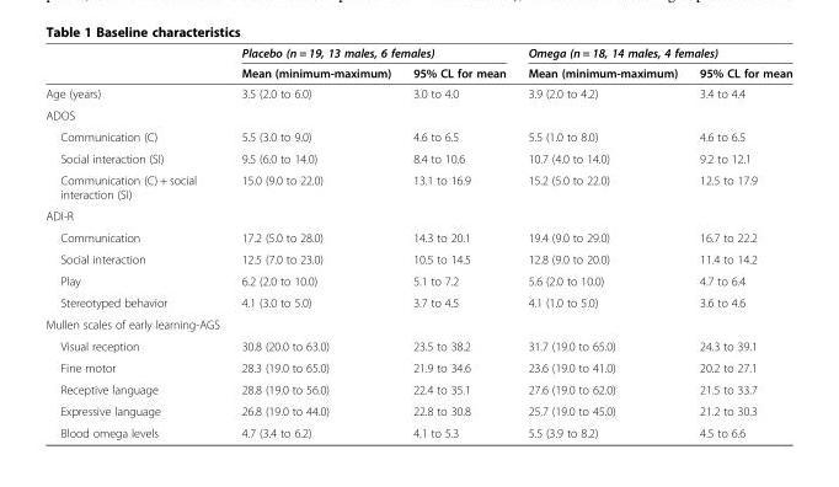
<table><thead><tr><td rowspan="2"></td><td colspan="2">Placebo (n = 19, 13 males, 6 females)</td><td colspan="2">Omega (n = 18, 14 males, 4 females)</td></tr><tr><td>Mean (minimum-maximum)</td><td>95% CL for mean</td><td>Mean (minimum-maximum)</td><td>95% CL for mean</td></tr></thead><tbody><tr><td>Age (years)</td><td>3.5 (2.0 to 6.0)</td><td>3.0 to 4.0</td><td>3.9 (2.0 to 4.2)</td><td>3.4 to 4.4</td></tr><tr><td colspan="5">ADOS</td></tr><tr><td>Communication (C)</td><td>5.5 (3.0 to 9.0)</td><td>4.6 to 6.5</td><td>5.5 (1.0 to 8.0)</td><td>4.6 to 6.5</td></tr><tr><td>Social interaction (SI)</td><td>9.5 (6.0 to 14.0)</td><td>8.4 to 10.6</td><td>10.7 (4.0 to 14.0)</td><td>9.2 to 12.1</td></tr><tr><td>Communication (C) + social interaction (SI)</td><td>15.0 (9.0 to 22.0)</td><td>13.1 to 16.9</td><td>15.2 (5.0 to 22.0)</td><td>12.5 to 17.9</td></tr><tr><td colspan="5">ADI-R</td></tr><tr><td>Communication</td><td>17.2 (5.0 to 28.0)</td><td>14.3 to 20.1</td><td>19.4 (9.0 to 29.0)</td><td>16.7 to 22.2</td></tr><tr><td>Social interaction</td><td>12.5 (7.0 to 23.0)</td><td>10.5 to 14.5</td><td>12.8 (9.0 to 20.0)</td><td>11.4 to 14.2</td></tr><tr><td>Play</td><td>6.2 (2.0 to 10.0)</td><td>5.1 to 7.2</td><td>5.6 (2.0 to 10.0)</td><td>4.7 to 6.4</td></tr><tr><td>Stereotyped behavior</td><td>4.1 (3.0 to 5.0)</td><td>3.7 to 4.5</td><td>4.1 (1.0 to 5.0)</td><td>3.6 to 4.6</td></tr><tr><td colspan="5">Mullen scales of early learning-AGS</td></tr><tr><td>Visual reception</td><td>30.8 (20.0 to 63.0)</td><td>23.5 to 38.2</td><td>31.7 (19.0 to 65.0)</td><td>24.3 to 39.1</td></tr><tr><td>Fine motor</td><td>28.3 (19.0 to 65.0)</td><td>21.9 to 34.6</td><td>23.6 (19.0 to 41.0)</td><td>20.2 to 27.1</td></tr><tr><td>Receptive language</td><td>28.8 (19.0 to 56.0)</td><td>22.4 to 35.1</td><td>27.6 (19.0 to 62.0)</td><td>21.5 to 33.7</td></tr><tr><td>Expressive language</td><td>26.8 (19.0 to 44.0)</td><td>22.8 to 30.8</td><td>25.7 (19.0 to 45.0)</td><td>21.2 to 30.3</td></tr><tr><td>Blood omega levels</td><td>4.7 (3.4 to 6.2)</td><td>4.1 to 5.3</td><td>5.5 (3.9 to 8.2)</td><td>4.5 to 6.6</td></tr></tbody></table>